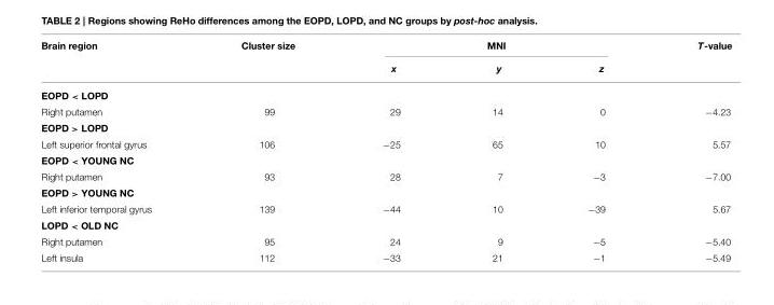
<table><thead><tr><td rowspan="2">Brain region</td><td rowspan="2">Cluster size</td><td colspan="3">MNI</td><td rowspan="2">T-value</td></tr><tr><td>x</td><td>y</td><td>z</td></tr></thead><tbody><tr><td colspan="6">EOPD &lt; LOPD</td></tr><tr><td>Right putamen</td><td>99</td><td>29</td><td>14</td><td>0</td><td>−4.23</td></tr><tr><td colspan="6">EOPD &gt; LOPD</td></tr><tr><td>Left superior frontal gyrus</td><td>106</td><td>−25</td><td>65</td><td>10</td><td>5.57</td></tr><tr><td colspan="6">EOPD &lt; YOUNG NC</td></tr><tr><td>Right putamen</td><td>93</td><td>28</td><td>7</td><td>−3</td><td>−7.00</td></tr><tr><td colspan="6">EOPD &gt; YOUNG NC</td></tr><tr><td>Left inferior temporal gyrus</td><td>139</td><td>−44</td><td>10</td><td>−39</td><td>5.67</td></tr><tr><td colspan="6">LOPD &lt; OLD NC</td></tr><tr><td>Right putamen</td><td>95</td><td>24</td><td>9</td><td>−5</td><td>−5.40</td></tr><tr><td>Left insula</td><td>112</td><td>−33</td><td>21</td><td>−1</td><td>−5.49</td></tr></tbody></table>